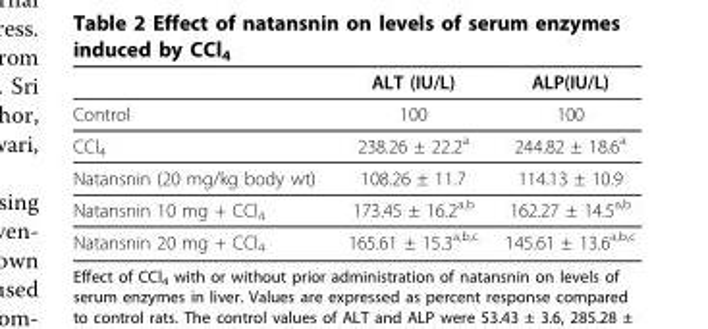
<table><thead><tr><td></td><td>ALT (IU/L)</td><td>ALP(IU/L)</td></tr></thead><tbody><tr><td>Control</td><td>100</td><td>100</td></tr><tr><td>CCl<sub>4</sub></td><td>238.26 ± 22.2<sup>a</sup></td><td>244.82 ± 18.6<sup>a</sup></td></tr><tr><td>Natansnin (20 mg/kg body wt)</td><td>108.26 ± 11.7</td><td>114.13 ± 10.9</td></tr><tr><td>Natansnin 10 mg + CCl<sub>4</sub></td><td>173.45 ± 16.2<sup>a,b</sup></td><td>162.27 ± 14.5<sup>a,b</sup></td></tr><tr><td>Natansnin 20 mg + CCl<sub>4</sub></td><td>165.61 ± 15.3<sup>a,b,c</sup></td><td>145.61 ± 13.6<sup>a,b,c</sup></td></tr></tbody></table>